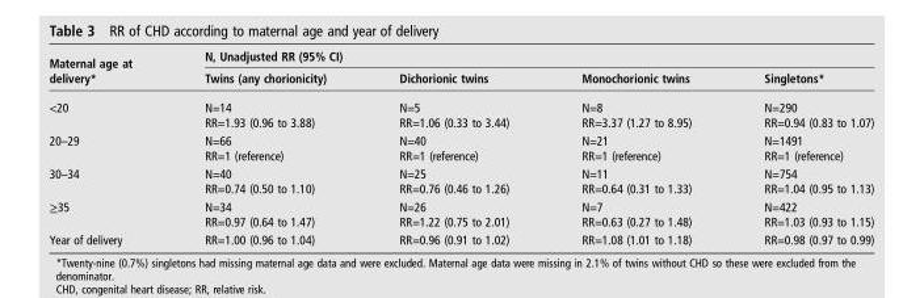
<table><thead><tr><td rowspan="2">Maternal age at delivery*</td><td colspan="4">N, Unadjusted RR (95% CI)</td></tr><tr><td>Twins (any chorionicity)</td><td>Dichorionic twins</td><td>Monochorionic twins</td><td>Singletons*</td></tr></thead><tbody><tr><td>&lt;20</td><td>N=14 RR=1.93 (0.96 to 3.88)</td><td>N=5 RR=1.06 (0.33 to 3.44)</td><td>N=8 RR=3.37 (1.27 to 8.95)</td><td>N=290 RR=0.94 (0.83 to 1.07)</td></tr><tr><td>20–29</td><td>N=66 RR=1 (reference)</td><td>N=40 RR=1 (reference)</td><td>N=21 RR=1 (reference)</td><td>N=1491 RR=1 (reference)</td></tr><tr><td>30–34</td><td>N=40 RR=0.74 (0.50 to 1.10)</td><td>N=25 RR=0.76 (0.46 to 1.26)</td><td>N=11 RR=0.64 (0.31 to 1.33)</td><td>N=754 RR=1.04 (0.95 to 1.13)</td></tr><tr><td>≥35</td><td>N=34 RR=0.97 (0.64 to 1.47)</td><td>N=26 RR=1.22 (0.75 to 2.01)</td><td>N=7 RR=0.63 (0.27 to 1.48)</td><td>N=422 RR=1.03 (0.93 to 1.15)</td></tr><tr><td>Year of delivery</td><td>RR=1.00 (0.96 to 1.04)</td><td>RR=0.96 (0.91 to 1.02)</td><td>RR=1.08 (1.01 to 1.18)</td><td>RR=0.98 (0.97 to 0.99)</td></tr></tbody></table>